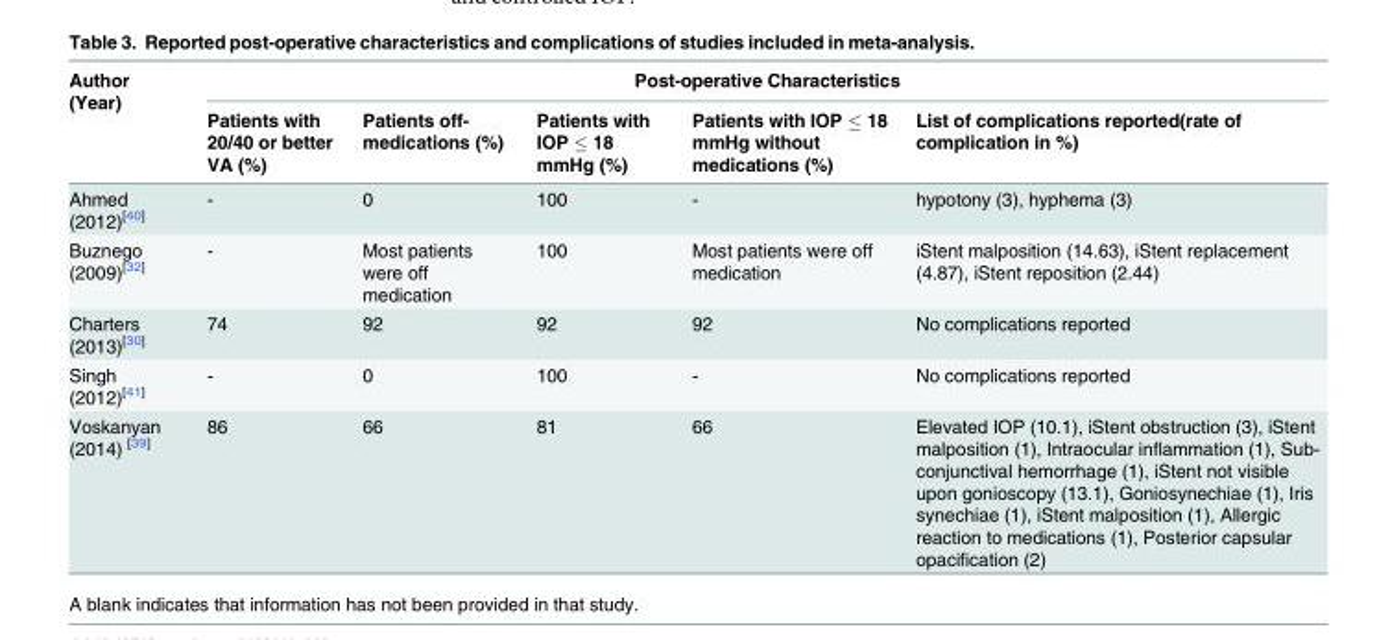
<table><thead><tr><td rowspan="2">Author (Year)</td><td colspan="5">Post-operative Characteristics</td></tr><tr><td>Patients with 20/40 or better VA (%)</td><td>Patients off- medications (%)</td><td>Patients with IOP ≤ 18 mmHg (%)</td><td>Patients with IOP ≤ 18 mmHg without medications (%)</td><td>List of complications reported(rate of complication in %)</td></tr></thead><tbody><tr><td>Ahmed (2012)<sup>[40]</sup></td><td>-</td><td>0</td><td>100</td><td>-</td><td>hypotony (3), hyphema (3)</td></tr><tr><td>Buznego (2009)<sup>[32]</sup></td><td>-</td><td>Most patients were off medication</td><td>100</td><td>Most patients were off medication</td><td>iStent malposition (14.63), iStent replacement (4.87), iStent reposition (2.44)</td></tr><tr><td>Charters (2013)<sup>[30]</sup></td><td>74</td><td>92</td><td>92</td><td>92</td><td>No complications reported</td></tr><tr><td>Singh (2012)<sup>[41]</sup></td><td>-</td><td>0</td><td>100</td><td>-</td><td>No complications reported</td></tr><tr><td>Voskanyan (2014) <sup>[39]</sup></td><td>86</td><td>66</td><td>81</td><td>66</td><td>Elevated IOP (10.1), iStent obstruction (3), iStent malposition (1), Intraocular inflammation (1), Sub- conjunctival hemorrhage (1), iStent not visible upon gonioscopy (13.1), Goniosynechiae (1), Iris synechiae (1), iStent malposition (1), Allergic reaction to medications (1), Posterior capsular opacification (2)</td></tr></tbody></table>